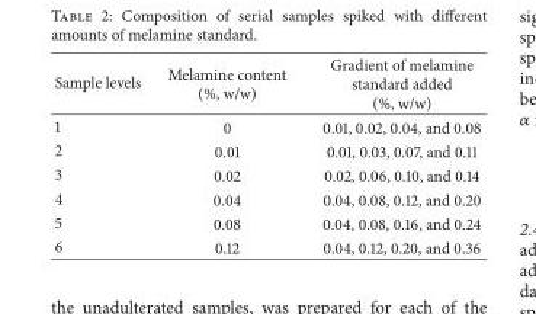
<table><thead><tr><td>Sample levels</td><td>Melamine content (%, w/w)</td><td>Gradient of melamine standard added (%, w/w)</td></tr></thead><tbody><tr><td>1</td><td>0</td><td>0.01, 0.02, 0.04, and 0.08</td></tr><tr><td>2</td><td>0.01</td><td>0.01, 0.03, 0.07, and 0.11</td></tr><tr><td>3</td><td>0.02</td><td>0.02, 0.06, 0.10, and 0.14</td></tr><tr><td>4</td><td>0.04</td><td>0.04, 0.08, 0.12, and 0.20</td></tr><tr><td>5</td><td>0.08</td><td>0.04, 0.08, 0.16, and 0.24</td></tr><tr><td>6</td><td>0.12</td><td>0.04, 0.12, 0.20, and 0.36</td></tr></tbody></table>